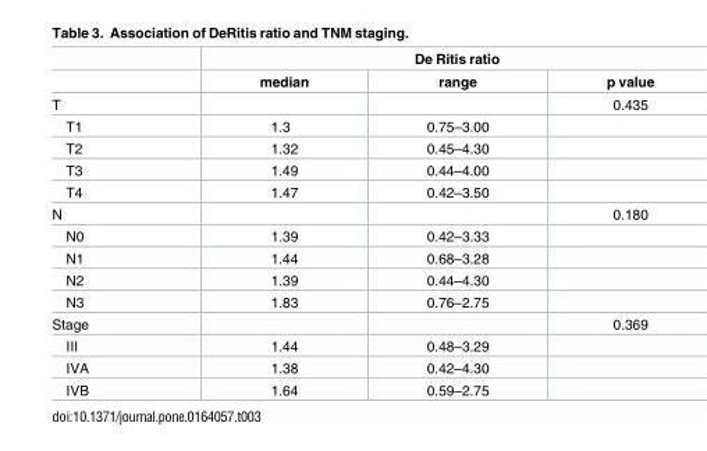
<table><thead><tr><td rowspan="2"></td><td colspan="3">De Ritis ratio</td></tr><tr><td>median</td><td>range</td><td>p value</td></tr></thead><tbody><tr><td>T</td><td></td><td></td><td>0.435</td></tr><tr><td>T1</td><td>1.3</td><td>0.75–3.00</td><td></td></tr><tr><td>T2</td><td>1.32</td><td>0.45–4.30</td><td></td></tr><tr><td>T3</td><td>1.49</td><td>0.44–4.00</td><td></td></tr><tr><td>T4</td><td>1.47</td><td>0.42–3.50</td><td></td></tr><tr><td>N</td><td></td><td></td><td>0.180</td></tr><tr><td>N0</td><td>1.39</td><td>0.42–3.33</td><td></td></tr><tr><td>N1</td><td>1.44</td><td>0.68–3.28</td><td></td></tr><tr><td>N2</td><td>1.39</td><td>0.44–4.30</td><td></td></tr><tr><td>N3</td><td>1.83</td><td>0.76–2.75</td><td></td></tr><tr><td>Stage</td><td></td><td></td><td>0.369</td></tr><tr><td>III</td><td>1.44</td><td>0.48–3.29</td><td></td></tr><tr><td>IVA</td><td>1.38</td><td>0.42–4.30</td><td></td></tr><tr><td>IVB</td><td>1.64</td><td>0.59–2.75</td><td></td></tr></tbody></table>